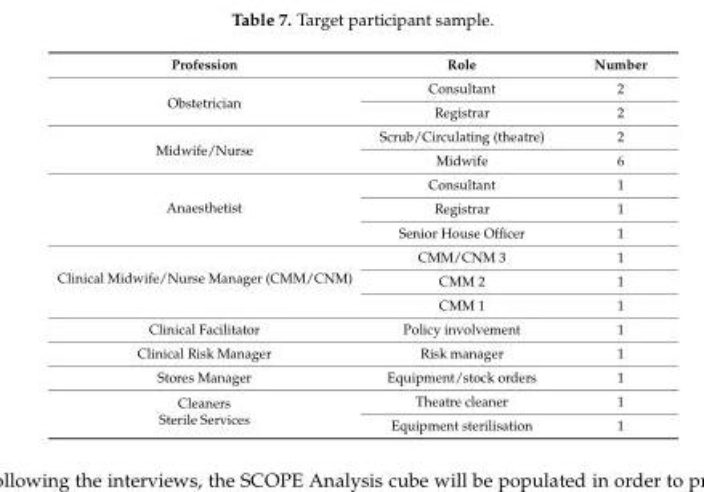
<table><thead><tr><td>Profession</td><td>Role</td><td>Number</td></tr></thead><tbody><tr><td rowspan="2">Obstetrician</td><td>Consultant</td><td>2</td></tr><tr><td>Registrar</td><td>2</td></tr><tr><td rowspan="2">Midwife/Nurse</td><td>Scrub/Circulating (theatre)</td><td>2</td></tr><tr><td>Midwife</td><td>6</td></tr><tr><td rowspan="3">Anaesthetist</td><td>Consultant</td><td>1</td></tr><tr><td>Registrar</td><td>1</td></tr><tr><td>Senior House Officer</td><td>1</td></tr><tr><td rowspan="3">Clinical Midwife/Nurse Manager (CMM/CNM)</td><td>CMM/CNM 3</td><td>1</td></tr><tr><td>CMM 2</td><td>1</td></tr><tr><td>CMM 1</td><td>1</td></tr><tr><td>Clinical Facilitator</td><td>Policy involvement</td><td>1</td></tr><tr><td>Clinical Risk Manager</td><td>Risk manager</td><td>1</td></tr><tr><td>Stores Manager</td><td>Equipment/stock orders</td><td>1</td></tr><tr><td rowspan="2">Cleaners Sterile Services</td><td>Theatre cleaner</td><td>1</td></tr><tr><td>Equipment sterilisation</td><td>1</td></tr></tbody></table>